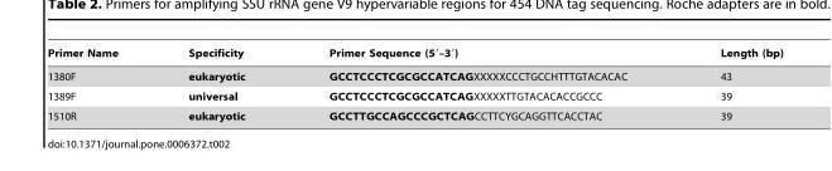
<table><thead><tr><td>Primer Name</td><td>Specificity</td><td>Primer Sequence (5′–3′)</td><td>Length (bp)</td></tr></thead><tbody><tr><td>1380F</td><td>eukaryotic</td><td>GCCTCCCTCGCGCCATCAGXXXXXCCCTGCCHTTTGTACACAC</td><td>43</td></tr><tr><td>1389F</td><td>universal</td><td>GCCTCCCTCGCGCCATCAGXXXXXTTGTACACACCGCCC</td><td>39</td></tr><tr><td>1510R</td><td>eukaryotic</td><td>GCCTTGCCAGCCCGCTCAGCCTTCYGCAGGTTCACCTAC</td><td>39</td></tr></tbody></table>